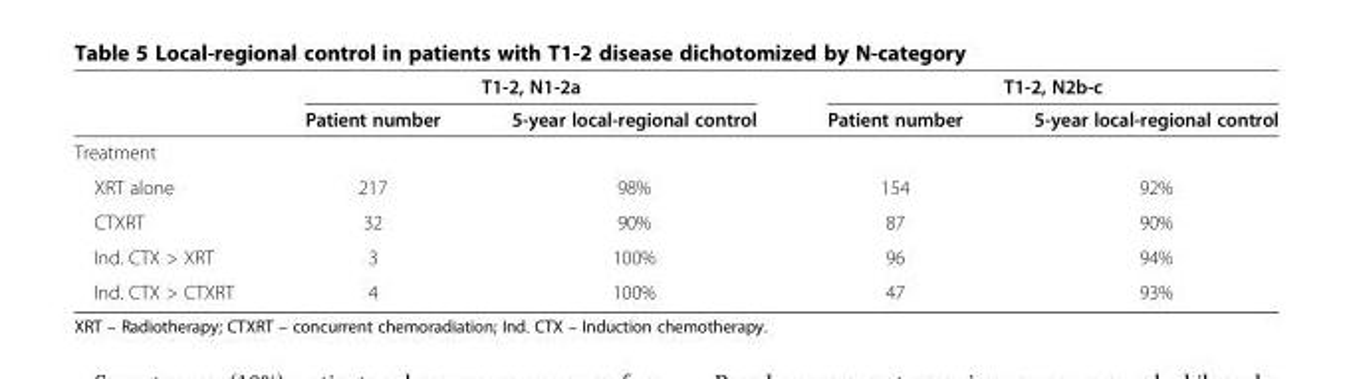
<table><thead><tr><td rowspan="2"></td><td colspan="2">T1-2, N1-2a</td><td colspan="2">T1-2, N2b-c</td></tr><tr><td>Patient number</td><td>5-year local-regional control</td><td>Patient number</td><td>5-year local-regional control</td></tr></thead><tbody><tr><td colspan="5">Treatment</td></tr><tr><td>XRT alone</td><td>217</td><td>98%</td><td>154</td><td>92%</td></tr><tr><td>CTXRT</td><td>32</td><td>90%</td><td>87</td><td>90%</td></tr><tr><td>Ind. CTX &gt; XRT</td><td>3</td><td>100%</td><td>96</td><td>94%</td></tr><tr><td>Ind. CTX &gt; CTXRT</td><td>4</td><td>100%</td><td>47</td><td>93%</td></tr></tbody></table>